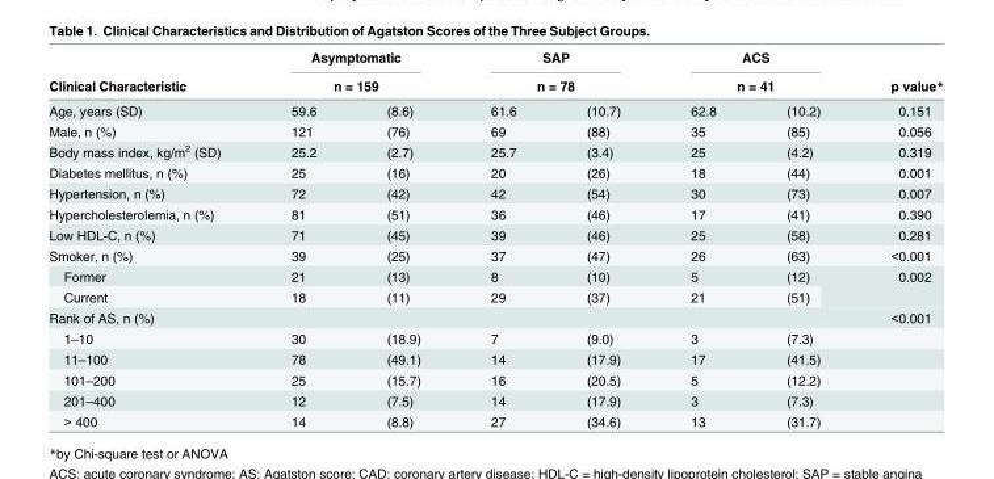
<table><thead><tr><td rowspan="3">Clinical Characteristic Age, years (SD)</td><td rowspan="2" colspan="2">Asymptomatic n = 159</td><td rowspan="2" colspan="2">SAP n = 78</td><td rowspan="2" colspan="2">ACS n = 41</td><td rowspan="3">p value* 0.151</td></tr><tr></tr><tr><td>59.6</td><td>(8.6)</td><td>61.6</td><td>(10.7)</td><td>62.8</td><td>(10.2)</td></tr></thead><tbody><tr><td>Male, n (%)</td><td>121</td><td>(76)</td><td>69</td><td>(88)</td><td>35</td><td>(85)</td><td>0.056</td></tr><tr><td>Body mass index, kg/m<sup>2</sup> (SD)</td><td>25.2</td><td>(2.7)</td><td>25.7</td><td>(3.4)</td><td>25</td><td>(4.2)</td><td>0.319</td></tr><tr><td>Diabetes mellitus, n (%)</td><td>25</td><td>(16)</td><td>20</td><td>(26)</td><td>18</td><td>(44)</td><td>0.001</td></tr><tr><td>Hypertension, n (%)</td><td>72</td><td>(42)</td><td>42</td><td>(54)</td><td>30</td><td>(73)</td><td>0.007</td></tr><tr><td>Hypercholesterolemia, n (%)</td><td>81</td><td>(51)</td><td>36</td><td>(46)</td><td>17</td><td>(41)</td><td>0.390</td></tr><tr><td>Low HDL-C, n (%)</td><td>71</td><td>(45)</td><td>39</td><td>(46)</td><td>25</td><td>(58)</td><td>0.281</td></tr><tr><td>Smoker, n (%)</td><td>39</td><td>(25)</td><td>37</td><td>(47)</td><td>26</td><td>(63)</td><td>&lt;0.001</td></tr><tr><td>Former</td><td>21</td><td>(13)</td><td>8</td><td>(10)</td><td>5</td><td>(12)</td><td rowspan="2">0.002</td></tr><tr><td>Current</td><td>18</td><td>(11)</td><td>29</td><td>(37)</td><td>21</td><td>(51)</td></tr><tr><td>Rank of AS, n (%)</td><td></td><td></td><td></td><td></td><td></td><td></td><td>&lt;0.001</td></tr><tr><td>1–10</td><td>30</td><td>(18.9)</td><td>7</td><td>(9.0)</td><td>3</td><td>(7.3)</td><td></td></tr><tr><td>11–100</td><td>78</td><td>(49.1)</td><td>14</td><td>(17.9)</td><td>17</td><td>(41.5)</td><td></td></tr><tr><td>101–200</td><td>25</td><td>(15.7)</td><td>16</td><td>(20.5)</td><td>5</td><td>(12.2)</td><td></td></tr><tr><td>201–400</td><td>12</td><td>(7.5)</td><td>14</td><td>(17.9)</td><td>3</td><td>(7.3)</td><td></td></tr><tr><td>&gt; 400</td><td>14</td><td>(8.8)</td><td>27</td><td>(34.6)</td><td>13</td><td>(31.7)</td><td></td></tr></tbody></table>